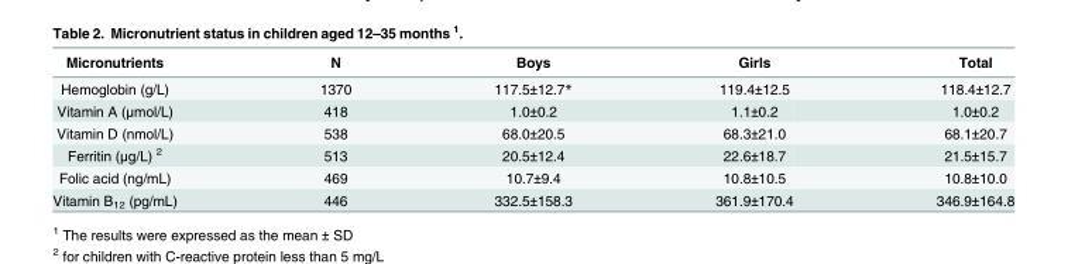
<table><thead><tr><td>Micronutrients</td><td>N</td><td>Boys</td><td>Girls</td><td>Total</td></tr></thead><tbody><tr><td>Hemoglobin (g/L)</td><td>1370</td><td>117.5±12.7*</td><td>119.4±12.5</td><td>118.4±12.7</td></tr><tr><td>Vitamin A (μmol/L)</td><td>418</td><td>1.0±0.2</td><td>1.1±0.2</td><td>1.0±0.2</td></tr><tr><td>Vitamin D (nmol/L)</td><td>538</td><td>68.0±20.5</td><td>68.3±21.0</td><td>68.1±20.7</td></tr><tr><td>Ferritin (μg/L) <sup>2</sup></td><td>513</td><td>20.5±12.4</td><td>22.6±18.7</td><td>21.5±15.7</td></tr><tr><td>Folic acid (ng/mL)</td><td>469</td><td>10.7±9.4</td><td>10.8±10.5</td><td>10.8±10.0</td></tr><tr><td>Vitamin B<sub>12</sub> (pg/mL)</td><td>446</td><td>332.5±158.3</td><td>361.9±170.4</td><td>346.9±164.8</td></tr></tbody></table>